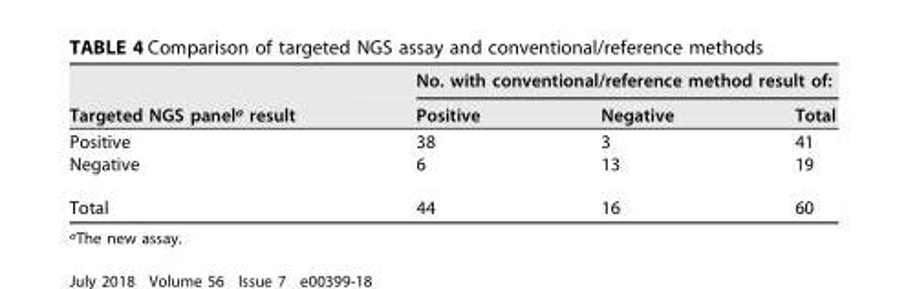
<table><thead><tr><td rowspan="2">Targeted NGS panel<sup>a</sup> result</td><td colspan="3">No. with conventional/reference method result of:</td></tr><tr><td>Positive</td><td>Negative</td><td>Total</td></tr></thead><tbody><tr><td>Positive</td><td>38</td><td>3</td><td>41</td></tr><tr><td>Negative</td><td>6</td><td>13</td><td>19</td></tr><tr><td>Total</td><td>44</td><td>16</td><td>60</td></tr></tbody></table>